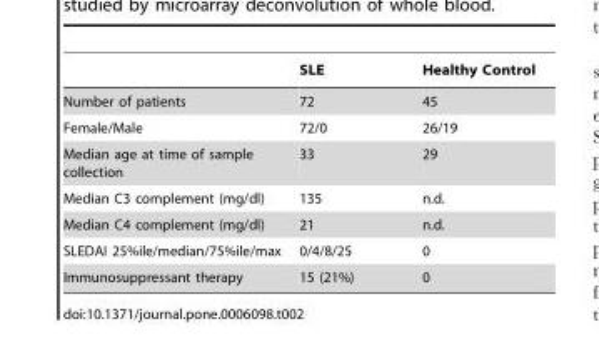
<table><thead><tr><td></td><td>SLE</td><td>Healthy Control</td></tr></thead><tbody><tr><td>Number of patients</td><td>72</td><td>45</td></tr><tr><td>Female/Male</td><td>72/0</td><td>26/19</td></tr><tr><td>Median age at time of sample collection</td><td>33</td><td>29</td></tr><tr><td>Median C3 complement (mg/dl)</td><td>135</td><td>n.d.</td></tr><tr><td>Median C4 complement (mg/dl)</td><td>21</td><td>n.d.</td></tr><tr><td>SLEDAI 25%ile/median/75%ile/max</td><td>0/4/8/25</td><td>0</td></tr><tr><td>Immunosuppressant therapy</td><td>15 (21%)</td><td>0</td></tr></tbody></table>